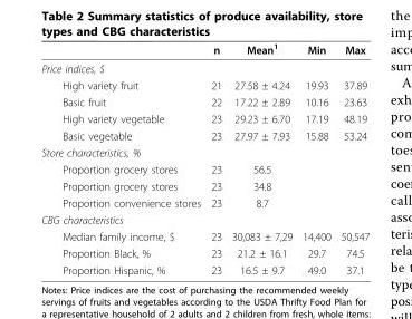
<table><thead><tr><td></td><td>n</td><td>Mean<sup>1</sup></td><td>Min</td><td>Max</td></tr></thead><tbody><tr><td colspan="5">Price indices, $</td></tr><tr><td>High variety fruit</td><td>21</td><td>27.58 ± 4.24</td><td>19.93</td><td>37.89</td></tr><tr><td>Basic fruit</td><td>22</td><td>17.22 ± 2.89</td><td>10.16</td><td>23.63</td></tr><tr><td>High variety vegetable</td><td>23</td><td>29.23 ± 6.70</td><td>17.19</td><td>48.19</td></tr><tr><td>Basic vegetable</td><td>23</td><td>27.97 ± 7.93</td><td>15.88</td><td>53.24</td></tr><tr><td colspan="5">Store characteristics, %</td></tr><tr><td>Proportion grocery stores</td><td>23</td><td>56.5</td><td></td><td></td></tr><tr><td>Proportion grocery stores</td><td>23</td><td>34.8</td><td></td><td></td></tr><tr><td>Proportion convenience stores</td><td>23</td><td>8.7</td><td></td><td></td></tr><tr><td colspan="5">CBG characteristics</td></tr><tr><td>Median family income, $</td><td>23</td><td>30,083 ± 7,29</td><td>14,400</td><td>50,547</td></tr><tr><td>Proportion Black, %</td><td>23</td><td>21.2 ± 16.1</td><td>29.7</td><td>74.5</td></tr><tr><td>Proportion Hispanic, %</td><td>23</td><td>16.5 ± 9.7</td><td>49.0</td><td>37.1</td></tr></tbody></table>